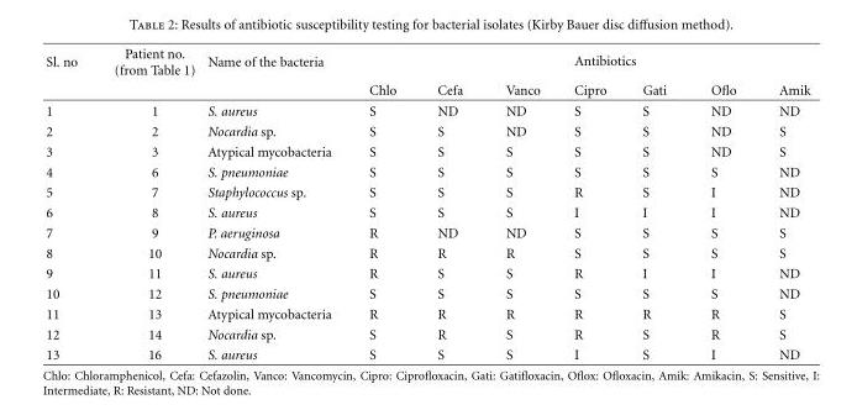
<table><thead><tr><td rowspan="2">Sl. no</td><td rowspan="2">Patient no. (from Table 1)</td><td rowspan="2">Name of the bacteria</td><td colspan="7">Antibiotics</td></tr><tr><td>Chlo</td><td>Cefa</td><td>Vanco</td><td>Cipro</td><td>Gati</td><td>Oflo</td><td>Amik</td></tr></thead><tbody><tr><td>1</td><td>1</td><td>S. aureus</td><td>S</td><td>ND</td><td>ND</td><td>S</td><td>S</td><td>ND</td><td>ND</td></tr><tr><td>2</td><td>2</td><td>Nocardia sp.</td><td>S</td><td>S</td><td>ND</td><td>S</td><td>S</td><td>ND</td><td>S</td></tr><tr><td>3</td><td>3</td><td>Atypical mycobacteria</td><td>S</td><td>S</td><td>S</td><td>S</td><td>S</td><td>ND</td><td>S</td></tr><tr><td>4</td><td>6</td><td>S. pneumoniae</td><td>S</td><td>S</td><td>S</td><td>S</td><td>S</td><td>S</td><td>ND</td></tr><tr><td>5</td><td>7</td><td>Staphylococcus sp.</td><td>S</td><td>S</td><td>S</td><td>R</td><td>S</td><td>I</td><td>ND</td></tr><tr><td>6</td><td>8</td><td>S. aureus</td><td>S</td><td>S</td><td>S</td><td>I</td><td>I</td><td>I</td><td>ND</td></tr><tr><td>7</td><td>9</td><td>P. aeruginosa</td><td>R</td><td>ND</td><td>ND</td><td>S</td><td>S</td><td>S</td><td>S</td></tr><tr><td>8</td><td>10</td><td>Nocardia sp.</td><td>R</td><td>R</td><td>R</td><td>S</td><td>S</td><td>S</td><td>S</td></tr><tr><td>9</td><td>11</td><td>S. aureus</td><td>R</td><td>S</td><td>S</td><td>R</td><td>I</td><td>I</td><td>ND</td></tr><tr><td>10</td><td>12</td><td>S. pneumoniae</td><td>S</td><td>S</td><td>S</td><td>S</td><td>S</td><td>S</td><td>ND</td></tr><tr><td>11</td><td>13</td><td>Atypical mycobacteria</td><td>R</td><td>R</td><td>R</td><td>R</td><td>R</td><td>R</td><td>S</td></tr><tr><td>12</td><td>14</td><td>Nocardia sp.</td><td>S</td><td>R</td><td>S</td><td>R</td><td>S</td><td>R</td><td>S</td></tr><tr><td>13</td><td>16</td><td>S. aureus</td><td>S</td><td>S</td><td>S</td><td>I</td><td>S</td><td>I</td><td>ND</td></tr></tbody></table>